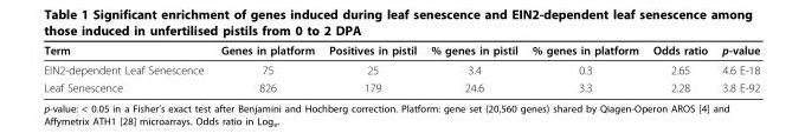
<table><thead><tr><td>Term</td><td>Genes in platform</td><td>Positives in pistil</td><td>% genes in pistil</td><td>% genes in platform</td><td>Odds ratio</td><td>p-value</td></tr></thead><tbody><tr><td>EIN2-dependent Leaf Senescence</td><td>75</td><td>25</td><td>3.4</td><td>0.3</td><td>2.65</td><td>4.6 E-18</td></tr><tr><td>Leaf Senescence</td><td>826</td><td>179</td><td>24.6</td><td>3.3</td><td>2.28</td><td>3.8 E-92</td></tr></tbody></table>